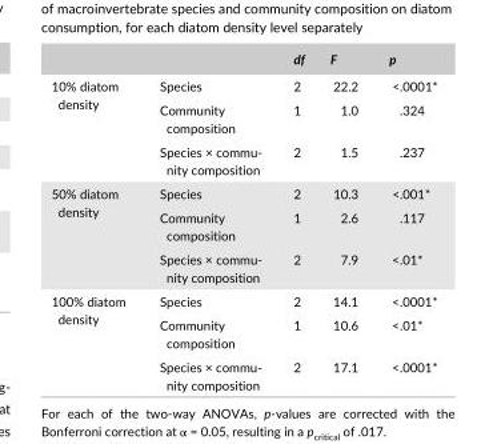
<table><thead><tr><td></td><td></td><td>df</td><td>F</td><td>p</td></tr></thead><tbody><tr><td rowspan="3">10% diatom density</td><td>Species</td><td>2</td><td>22.2</td><td>&lt;.0001*</td></tr><tr><td>Community composition</td><td>1</td><td>1.0</td><td>.324</td></tr><tr><td>Species × commu- nity composition</td><td>2</td><td>1.5</td><td>.237</td></tr><tr><td rowspan="3">50% diatom density</td><td>Species</td><td>2</td><td>10.3</td><td>&lt;.001*</td></tr><tr><td>Community composition</td><td>1</td><td>2.6</td><td>.117</td></tr><tr><td>Species × commu- nity composition</td><td>2</td><td>7.9</td><td>&lt;.01*</td></tr><tr><td rowspan="3">100% diatom density</td><td>Species</td><td>2</td><td>14.1</td><td>&lt;.0001*</td></tr><tr><td>Community composition</td><td>1</td><td>10.6</td><td>&lt;.01*</td></tr><tr><td>Species × commu- nity composition</td><td>2</td><td>17.1</td><td>&lt;.0001*</td></tr></tbody></table>